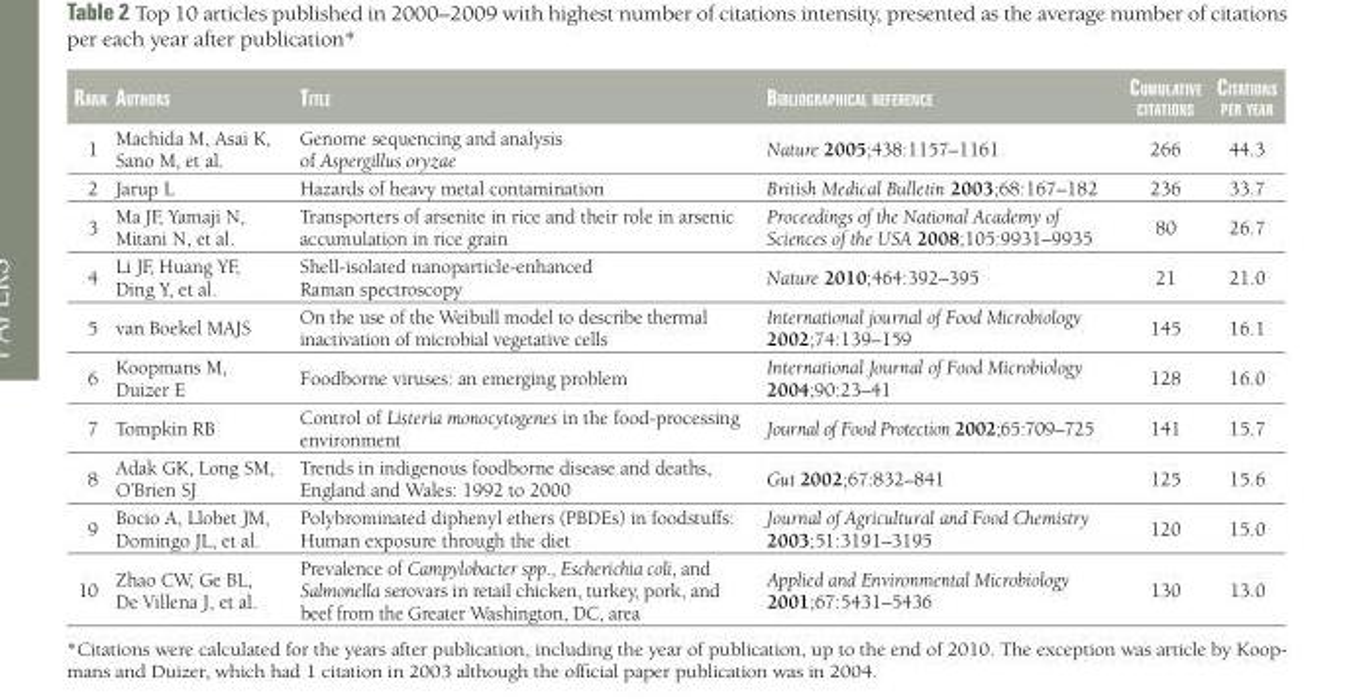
<table><thead><tr><td>raNk</td><td>authors</td><td>title</td><td>BiBliographical refereNce</td><td>cumulative citatioNs</td><td>citatioNs per year</td></tr></thead><tbody><tr><td>1</td><td>Machida M, Asai K, Sano M, et al.</td><td>Genome sequencing and analysis of Aspergillus oryzae</td><td>Nature 2005;438:1157–1161</td><td>266</td><td>44.3</td></tr><tr><td>2</td><td>Jarup L</td><td>Hazards of heavy metal contamination</td><td>British Medical Bulletin 2003;68:167–182</td><td>236</td><td>33.7</td></tr><tr><td>3</td><td>Ma JF, Yamaji N, Mitani N, et al.</td><td>Transporters of arsenite in rice and their role in arsenic accumulation in rice grain</td><td>Proceedings of the National Academy of Sciences of the USA 2008;105:9931–9935</td><td>80</td><td>26.7</td></tr><tr><td>4</td><td>Li JF, Huang YF, Ding Y, et al.</td><td>Shell-isolated nanoparticle-enhanced Raman spectroscopy</td><td>Nature 2010;464:392–395</td><td>21</td><td>21.0</td></tr><tr><td>5</td><td>van Boekel MAJS</td><td>On the use of the Weibull model to describe thermal inactivation of microbial vegetative cells</td><td>International journal of Food Microbiology 2002;74:139–159</td><td>145</td><td>16.1</td></tr><tr><td>6</td><td>Koopmans M, Duizer E</td><td>Foodborne viruses: an emerging problem</td><td>International Journal of Food Microbiology 2004;90:23–41</td><td>128</td><td>16.0</td></tr><tr><td>7</td><td>Tompkin RB</td><td>Control of Listeria monocytogenes in the food-processing environment</td><td>Journal of Food Protection 2002;65:709–725</td><td>141</td><td>15.7</td></tr><tr><td>8</td><td>Adak GK, Long SM, O’Brien SJ</td><td>Trends in indigenous foodborne disease and deaths, England and Wales: 1992 to 2000</td><td>Gut 2002;67:832–841</td><td>125</td><td>15.6</td></tr><tr><td>9</td><td>Bocio A, Llobet JM, Domingo JL, et al.</td><td>Polybrominated diphenyl ethers (PBDEs) in foodstuffs: Human exposure through the diet</td><td>Journal of Agricultural and Food Chemistry 2003;51:3191–3195</td><td>120</td><td>15.0</td></tr><tr><td>10</td><td>Zhao CW, Ge BL, De Villena J, et al.</td><td>Prevalence of Campylobacter spp., Escherichia coli, and Salmonella serovars in retail chicken, turkey, pork, and beef from the Greater Washington, DC, area</td><td>Applied and Environmental Microbiology 2001;67:5431–5436</td><td>130</td><td>13.0</td></tr></tbody></table>